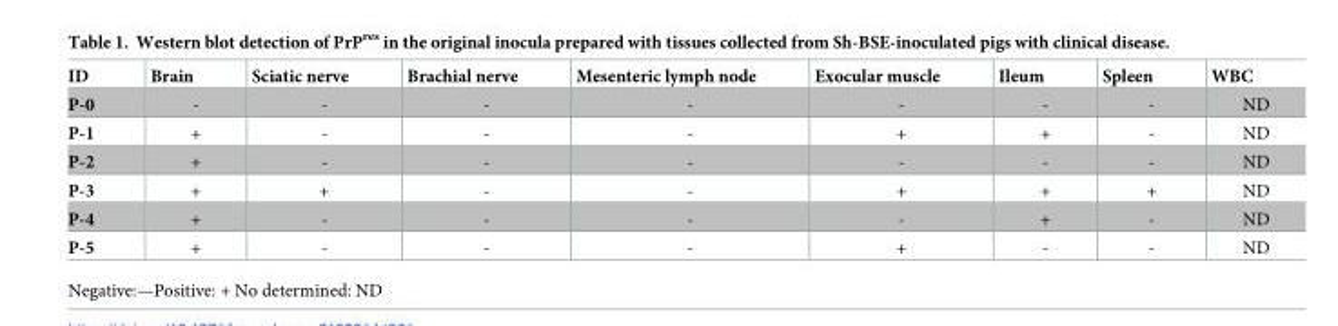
<table><thead><tr><td>ID</td><td>Brain</td><td>Sciatic nerve</td><td>Brachial nerve</td><td>Mesenteric lymph node</td><td>Exocular muscle</td><td>Ileum</td><td>Spleen</td><td>WBC</td></tr></thead><tbody><tr><td>P-0</td><td>-</td><td>-</td><td>-</td><td>-</td><td>-</td><td>-</td><td>-</td><td>ND</td></tr><tr><td>P-1</td><td>+</td><td>-</td><td>-</td><td>-</td><td>+</td><td>+</td><td>-</td><td>ND</td></tr><tr><td>P-2</td><td>+</td><td>-</td><td>-</td><td>-</td><td>-</td><td>-</td><td>-</td><td>ND</td></tr><tr><td>P-3</td><td>+</td><td>+</td><td>-</td><td>-</td><td>+</td><td>+</td><td>+</td><td>ND</td></tr><tr><td>P-4</td><td>+</td><td>-</td><td>-</td><td>-</td><td>-</td><td>+</td><td>-</td><td>ND</td></tr><tr><td>P-5</td><td>+</td><td>-</td><td>-</td><td>-</td><td>+</td><td>-</td><td>-</td><td>ND</td></tr></tbody></table>